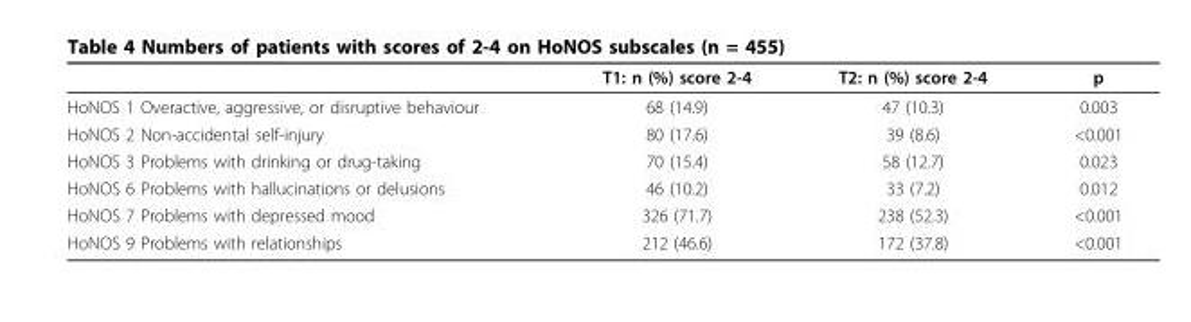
<table><thead><tr><td></td><td>T1: n (%) score 2-4</td><td>T2: n (%) score 2-4</td><td>p</td></tr></thead><tbody><tr><td>HoNOS 1 Overactive, aggressive, or disruptive behaviour</td><td>68 (14.9)</td><td>47 (10.3)</td><td>0.003</td></tr><tr><td>HoNOS 2 Non-accidental self-injury</td><td>80 (17.6)</td><td>39 (8.6)</td><td>&lt;0.001</td></tr><tr><td>HoNOS 3 Problems with drinking or drug-taking</td><td>70 (15.4)</td><td>58 (12.7)</td><td>0.023</td></tr><tr><td>HoNOS 6 Problems with hallucinations or delusions</td><td>46 (10.2)</td><td>33 (7.2)</td><td>0.012</td></tr><tr><td>HoNOS 7 Problems with depressed mood</td><td>326 (71.7)</td><td>238 (52.3)</td><td>&lt;0.001</td></tr><tr><td>HoNOS 9 Problems with relationships</td><td>212 (46.6)</td><td>172 (37.8)</td><td>&lt;0.001</td></tr></tbody></table>